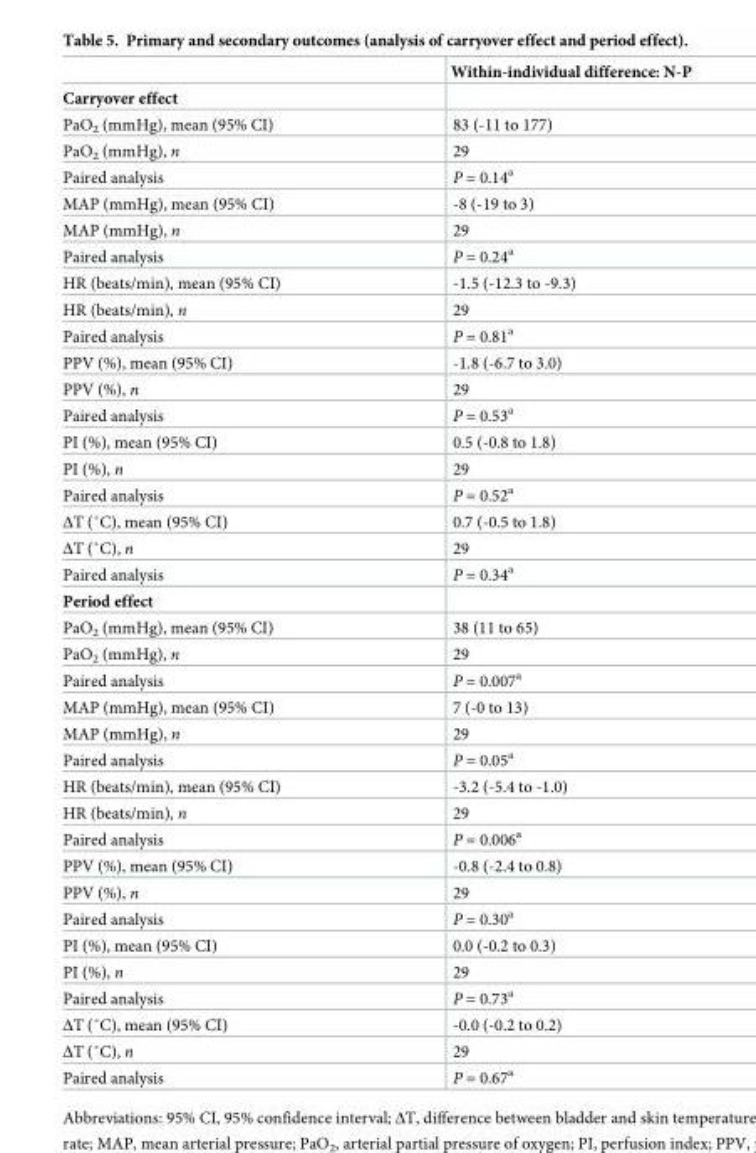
<table><thead><tr><td></td><td>Within-individual difference: N-P</td></tr></thead><tbody><tr><td colspan="2">Carryover effect</td></tr><tr><td>PaO<sub>2</sub> (mmHg), mean (95% CI)</td><td>83 (-11 to 177)</td></tr><tr><td>PaO<sub>2</sub> (mmHg), n</td><td>29</td></tr><tr><td>Paired analysis</td><td>P = 0.14<sup>a</sup></td></tr><tr><td>MAP (mmHg), mean (95% CI)</td><td>-8 (-19 to 3)</td></tr><tr><td>MAP (mmHg), n</td><td>29</td></tr><tr><td>Paired analysis</td><td>P = 0.24<sup>a</sup></td></tr><tr><td>HR (beats/min), mean (95% CI)</td><td>-1.5 (-12.3 to -9.3)</td></tr><tr><td>HR (beats/min), n</td><td>29</td></tr><tr><td>Paired analysis</td><td>P = 0.81<sup>a</sup></td></tr><tr><td>PPV (%), mean (95% CI)</td><td>-1.8 (-6.7 to 3.0)</td></tr><tr><td>PPV (%), n</td><td>29</td></tr><tr><td>Paired analysis</td><td>P = 0.53<sup>a</sup></td></tr><tr><td>PI (%), mean (95% CI)</td><td>0.5 (-0.8 to 1.8)</td></tr><tr><td>PI (%), n</td><td>29</td></tr><tr><td>Paired analysis</td><td>P = 0.52<sup>a</sup></td></tr><tr><td>ΔT (˚C), mean (95% CI)</td><td>0.7 (-0.5 to 1.8)</td></tr><tr><td>ΔT (˚C), n</td><td>29</td></tr><tr><td>Paired analysis</td><td>P = 0.34<sup>a</sup></td></tr><tr><td colspan="2">Period effect</td></tr><tr><td>PaO<sub>2</sub> (mmHg), mean (95% CI)</td><td>38 (11 to 65)</td></tr><tr><td>PaO<sub>2</sub> (mmHg), n</td><td>29</td></tr><tr><td>Paired analysis</td><td>P = 0.007<sup>a</sup></td></tr><tr><td>MAP (mmHg), mean (95% CI)</td><td>7 (-0 to 13)</td></tr><tr><td>MAP (mmHg), n</td><td>29</td></tr><tr><td>Paired analysis</td><td>P = 0.05<sup>a</sup></td></tr><tr><td>HR (beats/min), mean (95% CI)</td><td>-3.2 (-5.4 to -1.0)</td></tr><tr><td>HR (beats/min), n</td><td>29</td></tr><tr><td>Paired analysis</td><td>P = 0.006<sup>a</sup></td></tr><tr><td>PPV (%), mean (95% CI)</td><td>-0.8 (-2.4 to 0.8)</td></tr><tr><td>PPV (%), n</td><td>29</td></tr><tr><td>Paired analysis</td><td>P = 0.30<sup>a</sup></td></tr><tr><td>PI (%), mean (95% CI)</td><td>0.0 (-0.2 to 0.3)</td></tr><tr><td>PI (%), n</td><td>29</td></tr><tr><td>Paired analysis</td><td>P = 0.73<sup>a</sup></td></tr><tr><td>ΔT (˚C), mean (95% CI)</td><td>-0.0 (-0.2 to 0.2)</td></tr><tr><td>ΔT (˚C), n</td><td>29</td></tr><tr><td>Paired analysis</td><td>P = 0.67<sup>a</sup></td></tr></tbody></table>